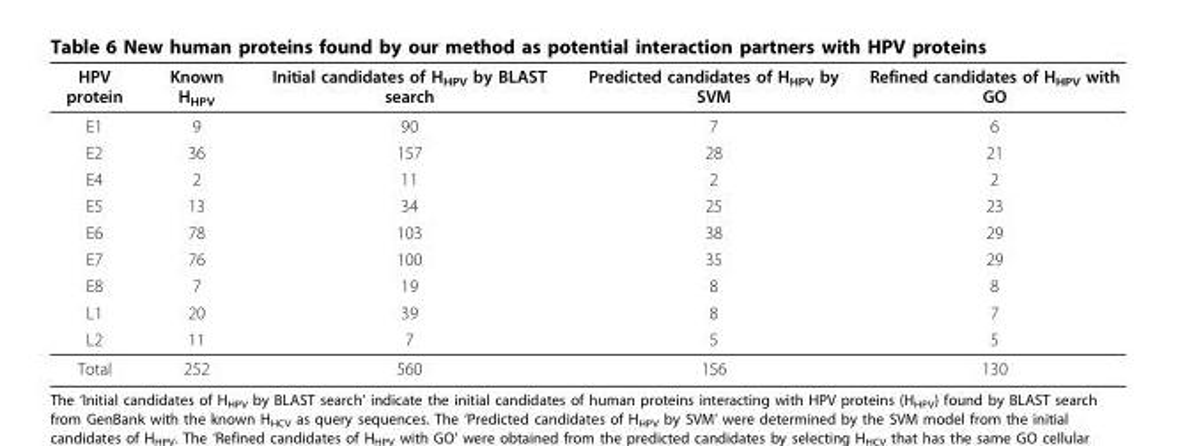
<table><thead><tr><td>HPV protein</td><td>Known H<sub>HPV</sub></td><td>Initial candidates of H<sub>HPV</sub> by BLAST search</td><td>Predicted candidates of H<sub>HPV</sub> by SVM</td><td>Refined candidates of H<sub>HPV</sub> with GO</td></tr></thead><tbody><tr><td>E1</td><td>9</td><td>90</td><td>7</td><td>6</td></tr><tr><td>E2</td><td>36</td><td>157</td><td>28</td><td>21</td></tr><tr><td>E4</td><td>2</td><td>11</td><td>2</td><td>2</td></tr><tr><td>E5</td><td>13</td><td>34</td><td>25</td><td>23</td></tr><tr><td>E6</td><td>78</td><td>103</td><td>38</td><td>29</td></tr><tr><td>E7</td><td>76</td><td>100</td><td>35</td><td>29</td></tr><tr><td>E8</td><td>7</td><td>19</td><td>8</td><td>8</td></tr><tr><td>L1</td><td>20</td><td>39</td><td>8</td><td>7</td></tr><tr><td>L2</td><td>11</td><td>7</td><td>5</td><td>5</td></tr><tr><td>Total</td><td>252</td><td>560</td><td>156</td><td>130</td></tr></tbody></table>